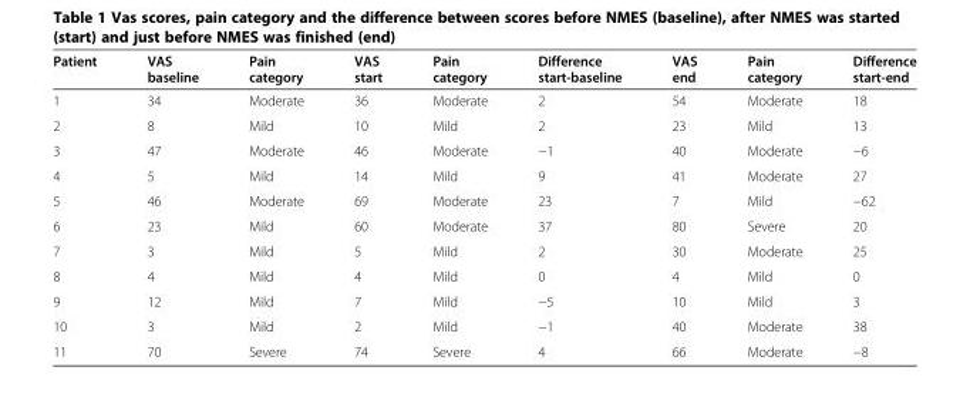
<table><thead><tr><td>Patient</td><td>VAS baseline</td><td>Pain category</td><td>VAS start</td><td>Pain category</td><td>Difference start-baseline</td><td>VAS end</td><td>Pain category</td><td>Difference start-end</td></tr></thead><tbody><tr><td>1</td><td>34</td><td>Moderate</td><td>36</td><td>Moderate</td><td>2</td><td>54</td><td>Moderate</td><td>18</td></tr><tr><td>2</td><td>8</td><td>Mild</td><td>10</td><td>Mild</td><td>2</td><td>23</td><td>Mild</td><td>13</td></tr><tr><td>3</td><td>47</td><td>Moderate</td><td>46</td><td>Moderate</td><td>−1</td><td>40</td><td>Moderate</td><td>−6</td></tr><tr><td>4</td><td>5</td><td>Mild</td><td>14</td><td>Mild</td><td>9</td><td>41</td><td>Moderate</td><td>27</td></tr><tr><td>5</td><td>46</td><td>Moderate</td><td>69</td><td>Moderate</td><td>23</td><td>7</td><td>Mild</td><td>−62</td></tr><tr><td>6</td><td>23</td><td>Mild</td><td>60</td><td>Moderate</td><td>37</td><td>80</td><td>Severe</td><td>20</td></tr><tr><td>7</td><td>3</td><td>Mild</td><td>5</td><td>Mild</td><td>2</td><td>30</td><td>Moderate</td><td>25</td></tr><tr><td>8</td><td>4</td><td>Mild</td><td>4</td><td>Mild</td><td>0</td><td>4</td><td>Mild</td><td>0</td></tr><tr><td>9</td><td>12</td><td>Mild</td><td>7</td><td>Mild</td><td>−5</td><td>10</td><td>Mild</td><td>3</td></tr><tr><td>10</td><td>3</td><td>Mild</td><td>2</td><td>Mild</td><td>−1</td><td>40</td><td>Moderate</td><td>38</td></tr><tr><td>11</td><td>70</td><td>Severe</td><td>74</td><td>Severe</td><td>4</td><td>66</td><td>Moderate</td><td>−8</td></tr></tbody></table>